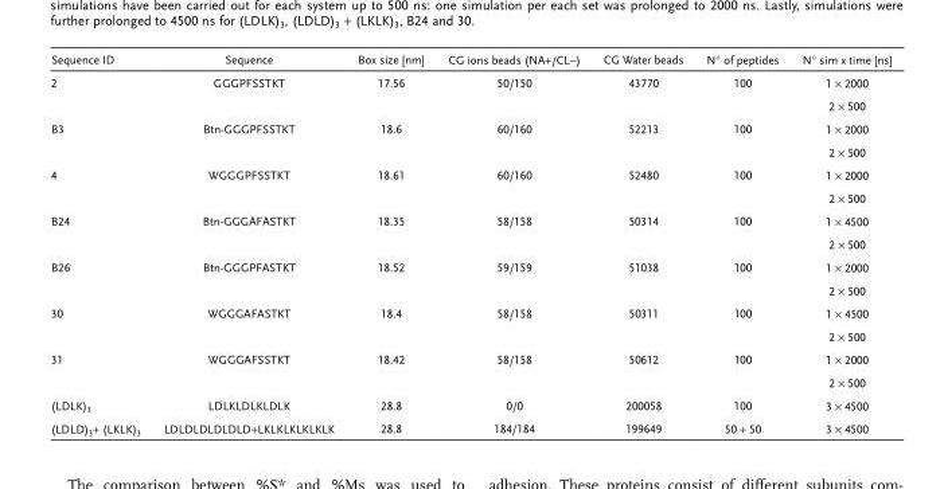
<table><thead><tr><td>Sequence ID</td><td>Sequence</td><td>Box size [nm]</td><td>CG ions beads (NA+/CL−)</td><td>CG Water beads</td><td>N° of peptides</td><td>N° sim x time [ns]</td></tr></thead><tbody><tr><td rowspan="2">2</td><td>GGGPFSSTKT</td><td>17.56</td><td>50/150</td><td>43770</td><td>100</td><td>1 × 2000</td></tr><tr><td></td><td></td><td></td><td></td><td></td><td>2 × 500</td></tr><tr><td rowspan="2">B3</td><td>Btn-GGGPFSSTKT</td><td>18.6</td><td>60/160</td><td>52213</td><td>100</td><td>1 × 2000</td></tr><tr><td></td><td></td><td></td><td></td><td></td><td>2 × 500</td></tr><tr><td rowspan="2">4</td><td>WGGGPFSSTKT</td><td>18.61</td><td>60/160</td><td>52480</td><td>100</td><td>1 × 2000</td></tr><tr><td></td><td></td><td></td><td></td><td></td><td>2 × 500</td></tr><tr><td rowspan="2">B24</td><td>Btn-GGGAFASTKT</td><td>18.35</td><td>58/158</td><td>50314</td><td>100</td><td>1 × 4500</td></tr><tr><td></td><td></td><td></td><td></td><td></td><td>2 × 500</td></tr><tr><td rowspan="2">B26</td><td>Btn-GGGPFASTKT</td><td>18.52</td><td>59/159</td><td>51038</td><td>100</td><td>1 × 2000</td></tr><tr><td></td><td></td><td></td><td></td><td></td><td>2 × 500</td></tr><tr><td rowspan="2">30</td><td>WGGGAFASTKT</td><td>18.4</td><td>58/158</td><td>50311</td><td>100</td><td>1 × 4500</td></tr><tr><td></td><td></td><td></td><td></td><td></td><td>2 × 500</td></tr><tr><td rowspan="2">31</td><td>WGGGAFSSTKT</td><td>18.42</td><td>58/158</td><td>50612</td><td>100</td><td>1 × 2000</td></tr><tr><td></td><td></td><td></td><td></td><td></td><td>2 × 500</td></tr><tr><td>(LDLK)<sub>3</sub></td><td>LDLKLDLKLDLK</td><td>28.8</td><td>0/0</td><td>200058</td><td>100</td><td>3 × 4500</td></tr><tr><td>(LDLD)<sub>3</sub>+ (LKLK)<sub>3</sub></td><td>LDLDLDLDLDLD+LKLKLKLKLKLK</td><td>28.8</td><td>184/184</td><td>199649</td><td>50 + 50</td><td>3 × 4500</td></tr></tbody></table>